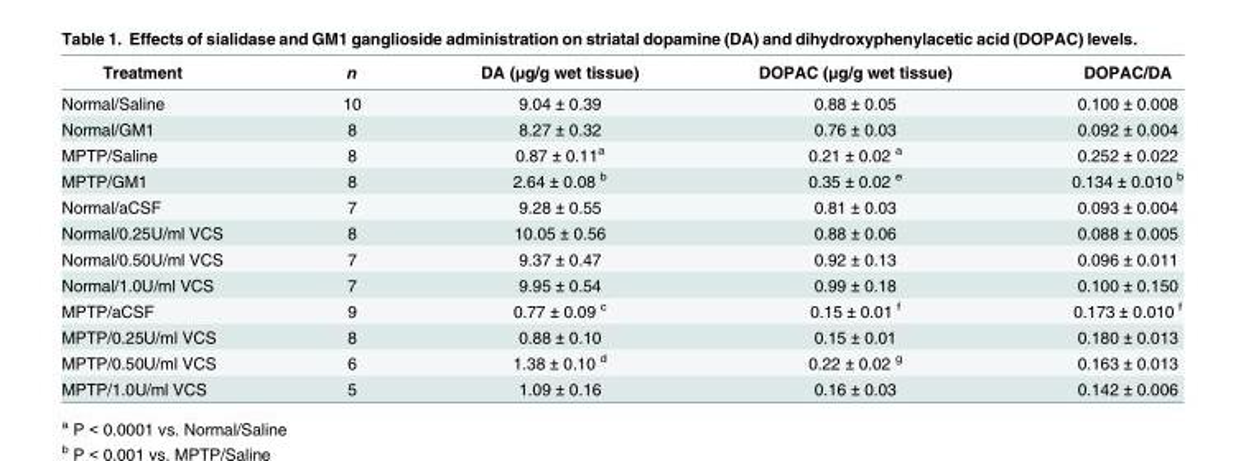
<table><thead><tr><td>Treatment</td><td>n</td><td>DA (μg/g wet tissue)</td><td>DOPAC (μg/g wet tissue)</td><td>DOPAC/DA</td></tr></thead><tbody><tr><td>Normal/Saline</td><td>10</td><td>9.04 ± 0.39</td><td>0.88 ± 0.05</td><td>0.100 ± 0.008</td></tr><tr><td>Normal/GM1</td><td>8</td><td>8.27 ± 0.32</td><td>0.76 ± 0.03</td><td>0.092 ± 0.004</td></tr><tr><td>MPTP/Saline</td><td>8</td><td>0.87 ± 0.11<sup>a</sup></td><td>0.21 ± 0.02 <sup>a</sup></td><td>0.252 ± 0.022</td></tr><tr><td>MPTP/GM1</td><td>8</td><td>2.64 ± 0.08 <sup>b</sup></td><td>0.35 ± 0.02 <sup>e</sup></td><td>0.134 ± 0.010 <sup>b</sup></td></tr><tr><td>Normal/aCSF</td><td>7</td><td>9.28 ± 0.55</td><td>0.81 ± 0.03</td><td>0.093 ± 0.004</td></tr><tr><td>Normal/0.25U/ml VCS</td><td>8</td><td>10.05 ± 0.56</td><td>0.88 ± 0.06</td><td>0.088 ± 0.005</td></tr><tr><td>Normal/0.50U/ml VCS</td><td>7</td><td>9.37 ± 0.47</td><td>0.92 ± 0.13</td><td>0.096 ± 0.011</td></tr><tr><td>Normal/1.0U/ml VCS</td><td>7</td><td>9.95 ± 0.54</td><td>0.99 ± 0.18</td><td>0.100 ± 0.150</td></tr><tr><td>MPTP/aCSF</td><td>9</td><td>0.77 ± 0.09 <sup>c</sup></td><td>0.15 ± 0.01 <sup>f</sup></td><td>0.173 ± 0.010 <sup>f</sup></td></tr><tr><td>MPTP/0.25U/ml VCS</td><td>8</td><td>0.88 ± 0.10</td><td>0.15 ± 0.01</td><td>0.180 ± 0.013</td></tr><tr><td>MPTP/0.50U/ml VCS</td><td>6</td><td>1.38 ± 0.10 <sup>d</sup></td><td>0.22 ± 0.02 <sup>g</sup></td><td>0.163 ± 0.013</td></tr><tr><td>MPTP/1.0U/ml VCS</td><td>5</td><td>1.09 ± 0.16</td><td>0.16 ± 0.03</td><td>0.142 ± 0.006</td></tr></tbody></table>